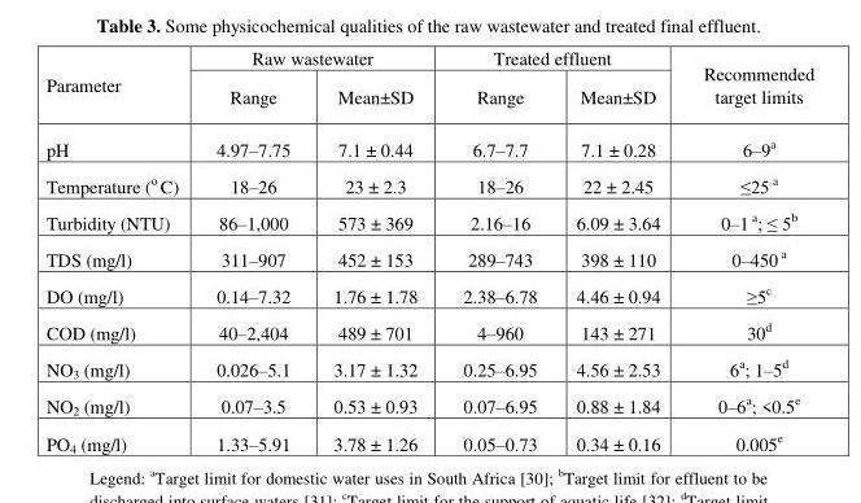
<table><thead><tr><td rowspan="2">Parameter</td><td colspan="2">Raw wastewater</td><td colspan="2">Treated effluent</td><td rowspan="2">Recommended target limits</td></tr><tr><td>Range</td><td>Mean±SD</td><td>Range</td><td>Mean±SD</td></tr></thead><tbody><tr><td>pH</td><td>4.97–7.75</td><td>7.1 ± 0.44</td><td>6.7–7.7</td><td>7.1 ± 0.28</td><td>6–9<sup>a</sup></td></tr><tr><td>Temperature (° C)</td><td>18–26</td><td>23 ± 2.3</td><td>18–26</td><td>22 ± 2.45</td><td>≤25 a</td></tr><tr><td>Turbidity (NTU)</td><td>86–1,000</td><td>573 ± 369</td><td>2.16–16</td><td>6.09 ± 3.64</td><td>0–1 a; ≤ 5<sup>b</sup></td></tr><tr><td>TDS (mg/l)</td><td>311–907</td><td>452 ± 153</td><td>289–743</td><td>398 ± 110</td><td>0–450 a</td></tr><tr><td>DO (mg/l)</td><td>0.14–7.32</td><td>1.76 ± 1.78</td><td>2.38–6.78</td><td>4.46 ± 0.94</td><td>≥5<sup>c</sup></td></tr><tr><td>COD (mg/l)</td><td>40–2,404</td><td>489 ± 701</td><td>4–960</td><td>143 ± 271</td><td>30<sup>d</sup></td></tr><tr><td>NO<sub>3</sub> (mg/l)</td><td>0.026–5.1</td><td>3.17 ± 1.32</td><td>0.25–6.95</td><td>4.56 ± 2.53</td><td>6<sup>a</sup>; 1–5<sup>d</sup></td></tr><tr><td>NO<sub>2</sub> (mg/l)</td><td>0.07–3.5</td><td>0.53 ± 0.93</td><td>0.07–6.95</td><td>0.88 ± 1.84</td><td>0–6<sup>a</sup>; &lt;0.5<sup>e</sup></td></tr><tr><td>PO<sub>4</sub> (mg/l)</td><td>1.33–5.91</td><td>3.78 ± 1.26</td><td>0.05–0.73</td><td>0.34 ± 0.16</td><td>0.005<sup>e</sup></td></tr></tbody></table>